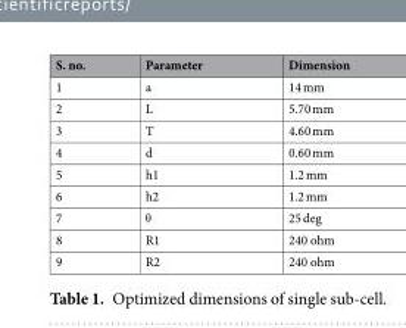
<table><thead><tr><td>S. no.</td><td>Parameter</td><td>Dimension</td></tr></thead><tbody><tr><td>1</td><td>a</td><td>14 mm</td></tr><tr><td>2</td><td>L</td><td>5.70 mm</td></tr><tr><td>3</td><td>T</td><td>4.60 mm</td></tr><tr><td>4</td><td>d</td><td>0.60 mm</td></tr><tr><td>5</td><td>h1</td><td>1.2 mm</td></tr><tr><td>6</td><td>h2</td><td>1.2 mm</td></tr><tr><td>7</td><td>θ</td><td>25 deg</td></tr><tr><td>8</td><td>R1</td><td>240 ohm</td></tr><tr><td>9</td><td>R2</td><td>240 ohm</td></tr></tbody></table>